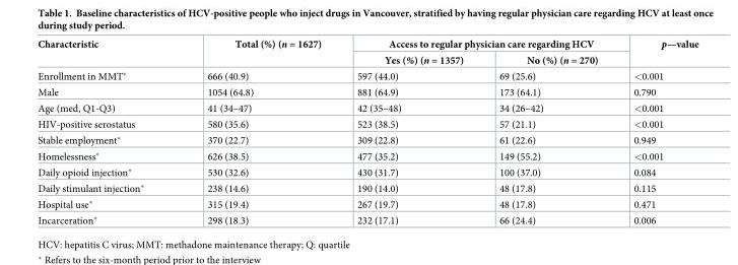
<table><thead><tr><td rowspan="2">Characteristic</td><td rowspan="2">Total (%) (n = 1627)</td><td colspan="2">Access to regular physician care regarding HCV</td><td rowspan="2">p—value</td></tr><tr><td>Yes (%) (n = 1357)</td><td>No (%) (n = 270)</td></tr></thead><tbody><tr><td>Enrollment in MMT*</td><td>666 (40.9)</td><td>597 (44.0)</td><td>69 (25.6)</td><td>&lt;0.001</td></tr><tr><td>Male</td><td>1054 (64.8)</td><td>881 (64.9)</td><td>173 (64.1)</td><td>0.790</td></tr><tr><td>Age (med, Q1-Q3)</td><td>41 (34–47)</td><td>42 (35–48)</td><td>34 (26–42)</td><td>&lt;0.001</td></tr><tr><td>HIV-positive serostatus</td><td>580 (35.6)</td><td>523 (38.5)</td><td>57 (21.1)</td><td>&lt;0.001</td></tr><tr><td>Stable employment*</td><td>370 (22.7)</td><td>309 (22.8)</td><td>61 (22.6)</td><td>0.949</td></tr><tr><td>Homelessness*</td><td>626 (38.5)</td><td>477 (35.2)</td><td>149 (55.2)</td><td>&lt;0.001</td></tr><tr><td>Daily opioid injection*</td><td>530 (32.6)</td><td>430 (31.7)</td><td>100 (37.0)</td><td>0.084</td></tr><tr><td>Daily stimulant injection*</td><td>238 (14.6)</td><td>190 (14.0)</td><td>48 (17.8)</td><td>0.115</td></tr><tr><td>Hospital use*</td><td>315 (19.4)</td><td>267 (19.7)</td><td>48 (17.8)</td><td>0.471</td></tr><tr><td>Incarceration*</td><td>298 (18.3)</td><td>232 (17.1)</td><td>66 (24.4)</td><td>0.006</td></tr></tbody></table>